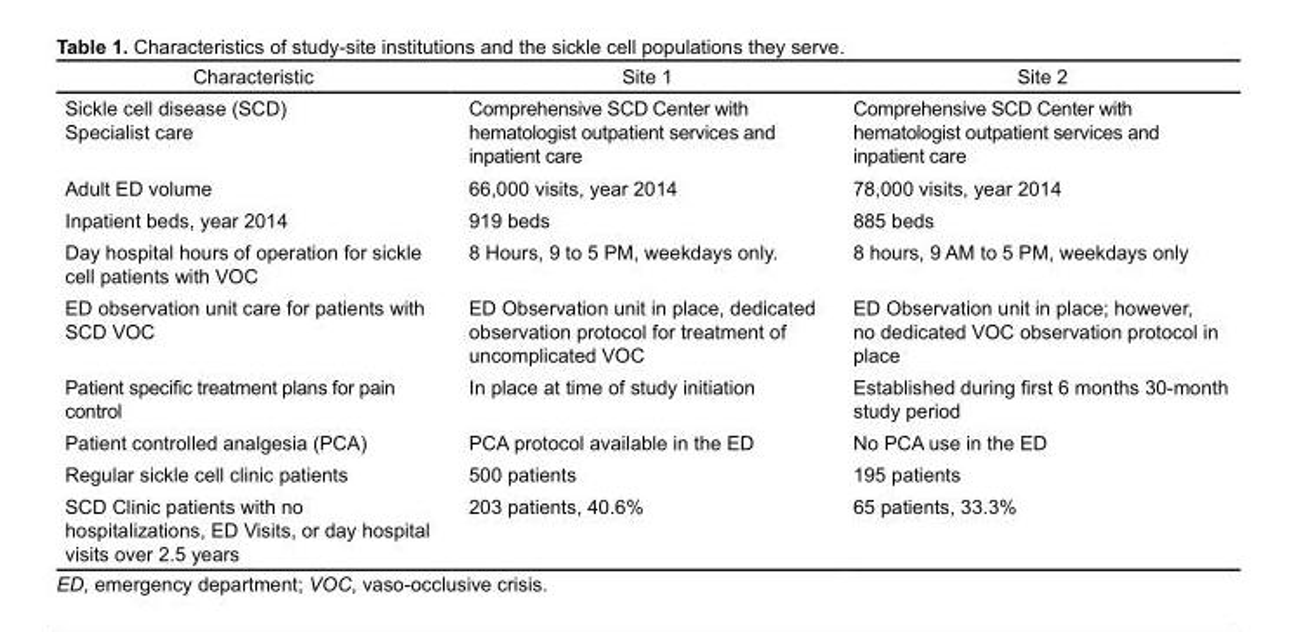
<table><thead><tr><td>Characteristic</td><td>Site 1</td><td>Site 2</td></tr></thead><tbody><tr><td>Sickle cell disease (SCD) Specialist care</td><td>Comprehensive SCD Center with hematologist outpatient services and inpatient care</td><td>Comprehensive SCD Center with hematologist outpatient services and inpatient care</td></tr><tr><td>Adult ED volume</td><td>66,000 visits, year 2014</td><td>78,000 visits, year 2014</td></tr><tr><td>Inpatient beds, year 2014</td><td>919 beds</td><td>885 beds</td></tr><tr><td>Day hospital hours of operation for sickle cell patients with VOC</td><td>8 Hours, 9 to 5 PM, weekdays only.</td><td>8 hours, 9 AM to 5 PM, weekdays only</td></tr><tr><td>ED observation unit care for patients with SCD VOC</td><td>ED Observation unit in place, dedicated observation protocol for treatment of uncomplicated VOC</td><td>ED Observation unit in place; however, no dedicated VOC observation protocol in place</td></tr><tr><td>Patient specific treatment plans for pain control</td><td>In place at time of study initiation</td><td>Established during first 6 months 30-month study period</td></tr><tr><td>Patient controlled analgesia (PCA)</td><td>PCA protocol available in the ED</td><td>No PCA use in the ED</td></tr><tr><td>Regular sickle cell clinic patients</td><td>500 patients</td><td>195 patients</td></tr><tr><td>SCD Clinic patients with no hospitalizations, ED Visits, or day hospital visits over 2.5 years</td><td>203 patients, 40.6%</td><td>65 patients, 33.3%</td></tr></tbody></table>